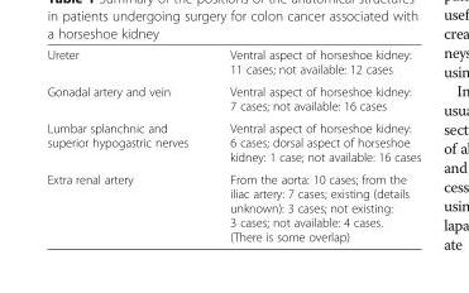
<table><tbody><tr><td>Ureter</td><td>Ventral aspect of horseshoe kidney: 11 cases; not available: 12 cases</td></tr><tr><td>Gonadal artery and vein</td><td>Ventral aspect of horseshoe kidney: 7 cases; not available: 16 cases</td></tr><tr><td>Lumbar splanchnic and superior hypogastric nerves</td><td>Ventral aspect of horseshoe kidney: 6 cases; dorsal aspect of horseshoe kidney: 1 case; not available: 16 cases</td></tr><tr><td>Extra renal artery</td><td>From the aorta: 10 cases; from the iliac artery: 7 cases; existing (details unknown): 3 cases; not existing: 3 cases; not available: 4 cases. (There is some overlap)</td></tr></tbody></table>